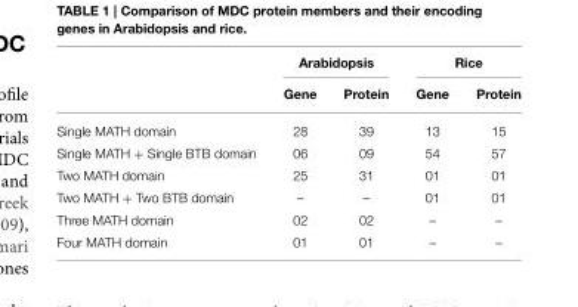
<table><thead><tr><td rowspan="2"></td><td colspan="2">Arabidopsis</td><td colspan="2">Rice</td></tr><tr><td>Gene</td><td>Protein</td><td>Gene</td><td>Protein</td></tr></thead><tbody><tr><td>Single MATH domain</td><td>28</td><td>39</td><td>13</td><td>15</td></tr><tr><td>Single MATH + Single BTB domain</td><td>06</td><td>09</td><td>54</td><td>57</td></tr><tr><td>Two MATH domain</td><td>25</td><td>31</td><td>01</td><td>01</td></tr><tr><td>Two MATH + Two BTB domain</td><td>–</td><td>–</td><td>01</td><td>01</td></tr><tr><td>Three MATH domain</td><td>02</td><td>02</td><td>–</td><td>–</td></tr><tr><td>Four MATH domain</td><td>01</td><td>01</td><td>–</td><td>–</td></tr></tbody></table>